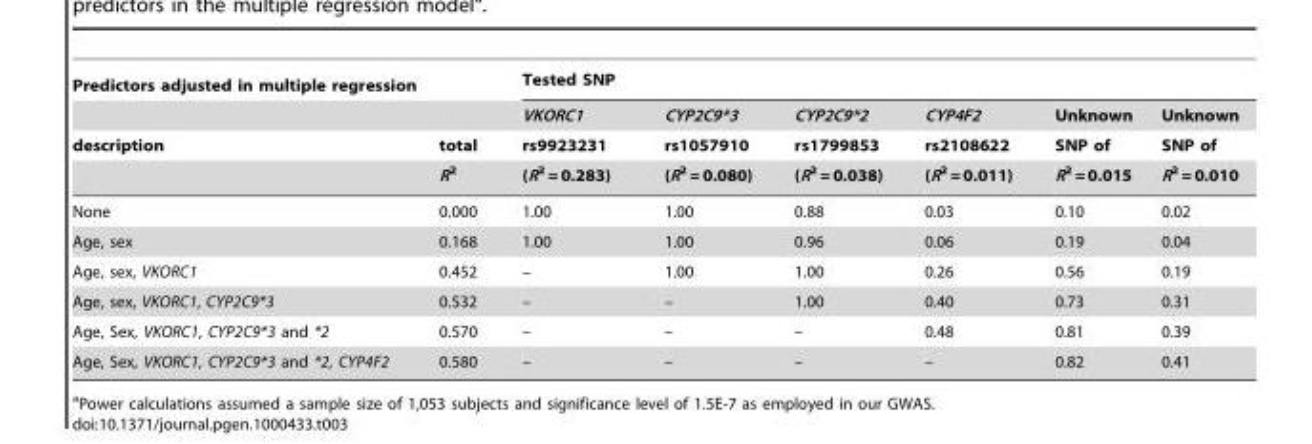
<table><thead><tr><td rowspan="4">Predictors adjusted in multiple regression description</td><td rowspan="4">total R<sup>2</sup></td><td colspan="6">Tested SNP</td></tr><tr><td rowspan="3">VKORC1 rs9923231 (R<sup>2</sup> = 0.283)</td><td rowspan="3">CYP2C9*3 rs1057910 (R<sup>2</sup> = 0.080)</td><td rowspan="3">CYP2C9*2 rs1799853 (R<sup>2</sup> = 0.038)</td><td rowspan="3">CYP4F2 rs2108622 (R<sup>2</sup> = 0.011)</td><td rowspan="3">Unknown SNP of R<sup>2</sup> = 0.015</td><td rowspan="3">Unknown SNP of R<sup>2</sup> = 0.010</td></tr><tr></tr><tr></tr></thead><tbody><tr><td>None</td><td>0.000</td><td>1.00</td><td>1.00</td><td>0.88</td><td>0.03</td><td>0.10</td><td>0.02</td></tr><tr><td>Age, sex</td><td>0.168</td><td>1.00</td><td>1.00</td><td>0.96</td><td>0.06</td><td>0.19</td><td>0.04</td></tr><tr><td>Age, sex, VKORC1</td><td>0.452</td><td>–</td><td>1.00</td><td>1.00</td><td>0.26</td><td>0.56</td><td>0.19</td></tr><tr><td>Age, sex, VKORC1, CYP2C9*3</td><td>0.532</td><td>–</td><td>–</td><td>1.00</td><td>0.40</td><td>0.73</td><td>0.31</td></tr><tr><td>Age, Sex, VKORC1, CYP2C9*3 and *2</td><td>0.570</td><td>–</td><td>–</td><td>–</td><td>0.48</td><td>0.81</td><td>0.39</td></tr><tr><td>Age, Sex, VKORC1, CYP2C9*3 and *2, CYP4F2</td><td>0.580</td><td>–</td><td>–</td><td>–</td><td>–</td><td>0.82</td><td>0.41</td></tr></tbody></table>